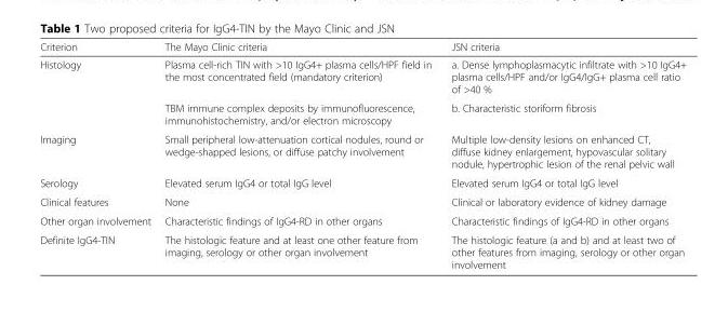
<table><thead><tr><td>Criterion</td><td>The Mayo Clinic criteria</td><td>JSN criteria</td></tr></thead><tbody><tr><td rowspan="2">Histology</td><td>Plasma cell-rich TIN with &gt;10 IgG4+ plasma cells/HPF field in the most concentrated field (mandatory criterion)</td><td>a. Dense lymphoplasmacytic infiltrate with &gt;10 IgG4+ plasma cells/HPF and/or IgG4/IgG+ plasma cell ratio of &gt;40 %</td></tr><tr><td>TBM immune complex deposits by immunofluorescence, immunohistochemistry, and/or electron microscopy</td><td>b. Characteristic storiform fibrosis</td></tr><tr><td>Imaging</td><td>Small peripheral low-attenuation cortical nodules, round or wedge-shapped lesions, or diffuse patchy involvement</td><td>Multiple low-density lesions on enhanced CT, diffuse kidney enlargement, hypovascular solitary nodule, hypertrophic lesion of the renal pelvic wall</td></tr><tr><td>Serology</td><td>Elevated serum IgG4 or total IgG level</td><td>Elevated serum IgG4 or total IgG level</td></tr><tr><td>Clinical features</td><td>None</td><td>Clinical or laboratory evidence of kidney damage</td></tr><tr><td>Other organ involvement</td><td>Characteristic findings of IgG4-RD in other organs</td><td>Characteristic findings of IgG4-RD in other organs</td></tr><tr><td>Definite IgG4-TIN</td><td>The histologic feature and at least one other feature from imaging, serology or other organ involvement</td><td>The histologic feature (a and b) and at least two of other features from imaging, serology or other organ involvement</td></tr></tbody></table>